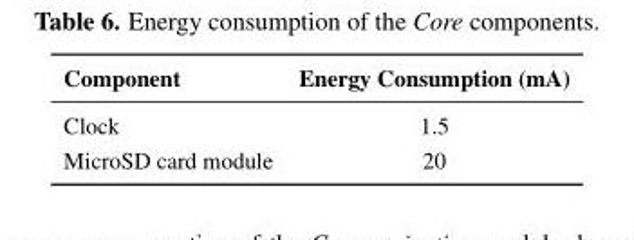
<table><thead><tr><td>Component</td><td>Energy Consumption (mA)</td></tr></thead><tbody><tr><td>Clock</td><td>1.5</td></tr><tr><td>MicroSD card module</td><td>20</td></tr></tbody></table>